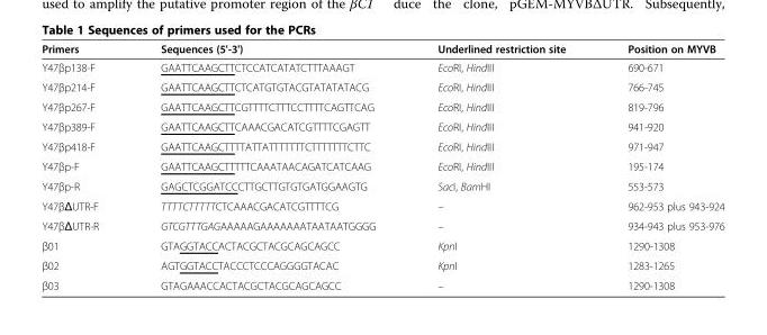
<table><thead><tr><td>Primers</td><td>Sequences (5&#x27;-3&#x27;)</td><td>Underlined restriction site</td><td>Position on MYVB</td></tr></thead><tbody><tr><td>Y47βp138-F</td><td>GAATTCAAGCTTCTCCATCATATCTTTAAAGT</td><td>EcoRI, HindIII</td><td>690-671</td></tr><tr><td>Y47βp214-F</td><td>GAATTCAAGCTTCTCATGTGTACGTATATATACG</td><td>EcoRI, HindIII</td><td>766-745</td></tr><tr><td>Y47βp267-F</td><td>GAATTCAAGCTTCGTTTTCTTTCCTTTTCAGTTCAG</td><td>EcoRI, HindIII</td><td>819-796</td></tr><tr><td>Y47βp389-F</td><td>GAATTCAAGCTTCAAACGACATCGTTTTCGAGTT</td><td>EcoRI, HindIII</td><td>941-920</td></tr><tr><td>Y47βp418-F</td><td>GAATTCAAGCTTTTATTATTTTTTTCTTTTTTTCTTC</td><td>EcoRI, HindIII</td><td>971-947</td></tr><tr><td>Y47βp-F</td><td>GAATTCAAGCTTTTTCAAATAACAGATCATCAAG</td><td>EcoRI, HindIII</td><td>195-174</td></tr><tr><td>Y47βp-R</td><td>GAGCTCGGATCCCTTGCTTGTGTGATGGAAGTG</td><td>SacI, BamHI</td><td>553-573</td></tr><tr><td>Y47βΔUTR-F</td><td>TTTTCTTTTTCTCAAACGACATCGTTTTCG</td><td>–</td><td>962-953 plus 943-924</td></tr><tr><td>Y47βΔUTR-R</td><td>GTCGTTTGAGAAAAAGAAAAAAATAATAATGGGG</td><td>–</td><td>934-943 plus 953-976</td></tr><tr><td>β01</td><td>GTAGGTACCACTACGCTACGCAGCAGCC</td><td>KpnI</td><td>1290-1308</td></tr><tr><td>β02</td><td>AGTGGTACCTACCCTCCCAGGGGTACAC</td><td>KpnI</td><td>1283-1265</td></tr><tr><td>β03</td><td>GTAGAAACCACTACGCTACGCAGCAGCC</td><td>–</td><td>1290-1308</td></tr></tbody></table>